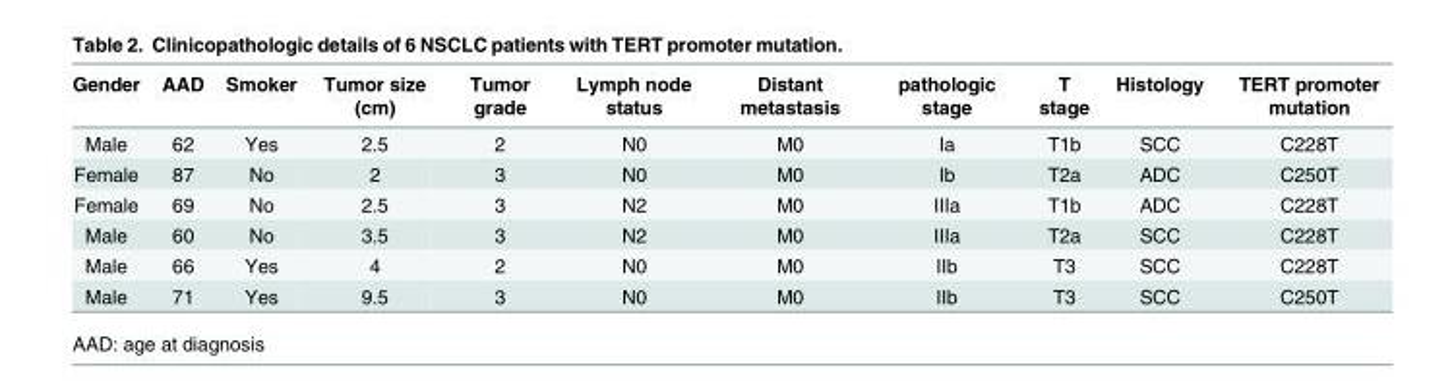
<table><thead><tr><td>Gender</td><td>AAD</td><td>Smoker</td><td>Tumor size (cm)</td><td>Tumor grade</td><td>Lymph node status</td><td>Distant metastasis</td><td>pathologic stage</td><td>T stage</td><td>Histology</td><td>TERT promoter mutation</td></tr></thead><tbody><tr><td>Male</td><td>62</td><td>Yes</td><td>2.5</td><td>2</td><td>N0</td><td>M0</td><td>Ia</td><td>T1b</td><td>SCC</td><td>C228T</td></tr><tr><td>Female</td><td>87</td><td>No</td><td>2</td><td>3</td><td>N0</td><td>M0</td><td>Ib</td><td>T2a</td><td>ADC</td><td>C250T</td></tr><tr><td>Female</td><td>69</td><td>No</td><td>2.5</td><td>3</td><td>N2</td><td>M0</td><td>IIIa</td><td>T1b</td><td>ADC</td><td>C228T</td></tr><tr><td>Male</td><td>60</td><td>No</td><td>3.5</td><td>3</td><td>N2</td><td>M0</td><td>IIIa</td><td>T2a</td><td>SCC</td><td>C228T</td></tr><tr><td>Male</td><td>66</td><td>Yes</td><td>4</td><td>2</td><td>N0</td><td>M0</td><td>IIb</td><td>T3</td><td>SCC</td><td>C228T</td></tr><tr><td>Male</td><td>71</td><td>Yes</td><td>9.5</td><td>3</td><td>N0</td><td>M0</td><td>IIb</td><td>T3</td><td>SCC</td><td>C250T</td></tr></tbody></table>